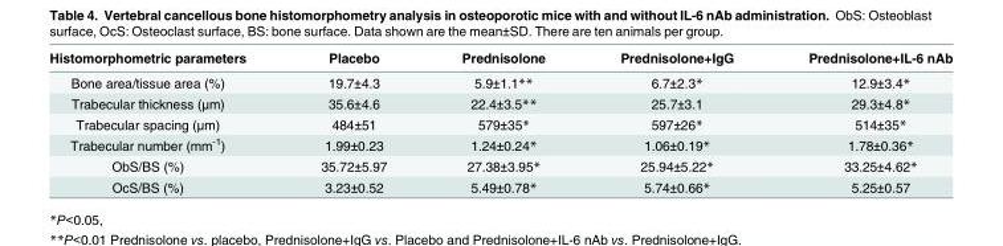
<table><thead><tr><td>Histomorphometric parameters</td><td>Placebo</td><td>Prednisolone</td><td>Prednisolone+IgG</td><td>Prednisolone+IL-6 nAb</td></tr></thead><tbody><tr><td>Bone area/tissue area (%)</td><td>19.7±4.3</td><td>5.9±1.1**</td><td>6.7±2.3*</td><td>12.9±3.4*</td></tr><tr><td>Trabecular thickness (μm)</td><td>35.6±4.6</td><td>22.4±3.5**</td><td>25.7±3.1</td><td>29.3±4.8*</td></tr><tr><td>Trabecular spacing (μm)</td><td>484±51</td><td>579±35*</td><td>597±26*</td><td>514±35*</td></tr><tr><td>Trabecular number (mm<sup>-1</sup>)</td><td>1.99±0.23</td><td>1.24±0.24*</td><td>1.06±0.19*</td><td>1.78±0.36*</td></tr><tr><td>ObS/BS (%)</td><td>35.72±5.97</td><td>27.38±3.95*</td><td>25.94±5.22*</td><td>33.25±4.62*</td></tr><tr><td>OcS/BS (%)</td><td>3.23±0.52</td><td>5.49±0.78*</td><td>5.74±0.66*</td><td>5.25±0.57</td></tr></tbody></table>